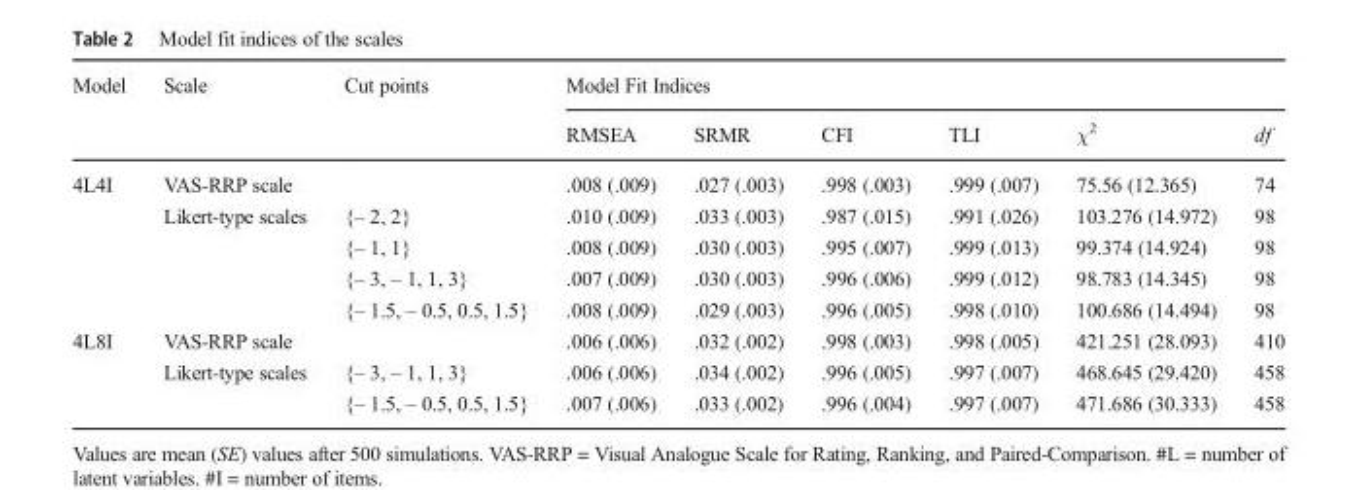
<table><thead><tr><td rowspan="2">Model</td><td rowspan="2">Scale</td><td rowspan="2">Cut points</td><td colspan="6">Model Fit Indices</td></tr><tr><td>RMSEA</td><td>SRMR</td><td>CFI</td><td>TLI</td><td>χ<sup>2</sup></td><td>df</td></tr></thead><tbody><tr><td rowspan="5">4L4I</td><td>VAS-RRP scale</td><td></td><td>.008 (.009)</td><td>.027 (.003)</td><td>.998 (.003)</td><td>.999 (.007)</td><td>75.56 (12.365)</td><td>74</td></tr><tr><td rowspan="4">Likert-type scales</td><td>{– 2, 2}</td><td>.010 (.009)</td><td>.033 (.003)</td><td>.987 (.015)</td><td>.991 (.026)</td><td>103.276 (14.972)</td><td>98</td></tr><tr><td>{– 1, 1}</td><td>.008 (.009)</td><td>.030 (.003)</td><td>.995 (.007)</td><td>.999 (.013)</td><td>99.374 (14.924)</td><td>98</td></tr><tr><td>{– 3, – 1, 1, 3}</td><td>.007 (.009)</td><td>.030 (.003)</td><td>.996 (.006)</td><td>.999 (.012)</td><td>98.783 (14.345)</td><td>98</td></tr><tr><td>{– 1.5, – 0.5, 0.5, 1.5}</td><td>.008 (.009)</td><td>.029 (.003)</td><td>.996 (.005)</td><td>.998 (.010)</td><td>100.686 (14.494)</td><td>98</td></tr><tr><td rowspan="3">4L8I</td><td>VAS-RRP scale</td><td></td><td>.006 (.006)</td><td>.032 (.002)</td><td>.998 (.003)</td><td>.998 (.005)</td><td>421.251 (28.093)</td><td>410</td></tr><tr><td rowspan="2">Likert-type scales</td><td>{– 3, – 1, 1, 3}</td><td>.006 (.006)</td><td>.034 (.002)</td><td>.996 (.005)</td><td>.997 (.007)</td><td>468.645 (29.420)</td><td>458</td></tr><tr><td>{– 1.5, – 0.5, 0.5, 1.5}</td><td>.007 (.006)</td><td>.033 (.002)</td><td>.996 (.004)</td><td>.997 (.007)</td><td>471.686 (30.333)</td><td>458</td></tr></tbody></table>